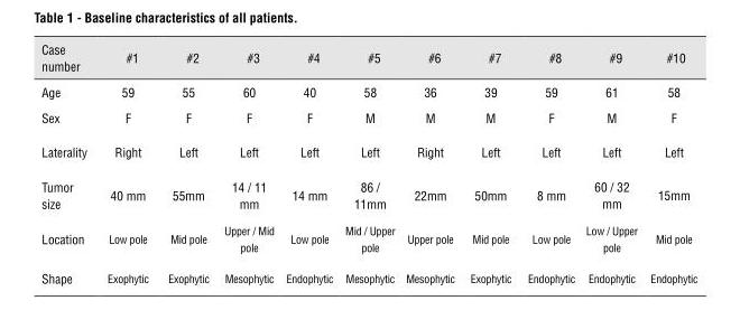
<table><thead><tr><td>Case number</td><td>#1</td><td>#2</td><td>#3</td><td>#4</td><td>#5</td><td>#6</td><td>#7</td><td>#8</td><td>#9</td><td>#10</td></tr></thead><tbody><tr><td>Age</td><td>59</td><td>55</td><td>60</td><td>40</td><td>58</td><td>36</td><td>39</td><td>59</td><td>61</td><td>58</td></tr><tr><td>Sex</td><td>F</td><td>F</td><td>F</td><td>F</td><td>M</td><td>M</td><td>M</td><td>F</td><td>M</td><td>F</td></tr><tr><td>Laterality</td><td>Right</td><td>Left</td><td>Left</td><td>Left</td><td>Left</td><td>Right</td><td>Left</td><td>Left</td><td>Left</td><td>Left</td></tr><tr><td>Tumor size</td><td>40 mm</td><td>55mm</td><td>14 / 11 mm</td><td>14 mm</td><td>86 / 11mm</td><td>22mm</td><td>50mm</td><td>8 mm</td><td>60 / 32 mm</td><td>15mm</td></tr><tr><td>Location</td><td>Low pole</td><td>Mid pole</td><td>Upper / Mid pole</td><td>Low pole</td><td>Mid / Upper pole</td><td>Upper pole</td><td>Mid pole</td><td>Low pole</td><td>Low / Upper pole</td><td>Mid pole</td></tr><tr><td>Shape</td><td>Exophytic</td><td>Exophytic</td><td>Mesophytic</td><td>Endophytic</td><td>Mesophytic</td><td>Mesophytic</td><td>Exophytic</td><td>Endophytic</td><td>Endophytic</td><td>Endophytic</td></tr></tbody></table>